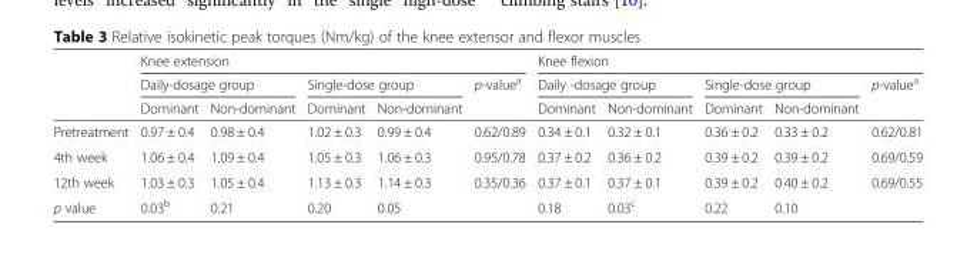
<table><thead><tr><td rowspan="3"></td><td colspan="5">Knee extension</td><td colspan="5">Knee flexion</td></tr><tr><td colspan="2">Daily-dosage group</td><td colspan="2">Single-dose group</td><td rowspan="2">p-value<sup>a</sup></td><td colspan="2">Daily -dosage group</td><td colspan="2">Single-dose group</td><td rowspan="2">p-value<sup>a</sup></td></tr><tr><td>Dominant</td><td>Non-dominant</td><td>Dominant</td><td>Non-dominant</td><td>Dominant</td><td>Non-dominant</td><td>Dominant</td><td>Non-dominant</td></tr></thead><tbody><tr><td>Pretreatment</td><td>0.97 ± 0.4</td><td>0.98 ± 0.4</td><td>1.02 ± 0.3</td><td>0.99 ± 0.4</td><td>0.62/0.89</td><td>0.34 ± 0.1</td><td>0.32 ± 0.1</td><td>0.36 ± 0.2</td><td>0.33 ± 0.2</td><td>0.62/0.81</td></tr><tr><td>4th week</td><td>1.06 ± 0.4</td><td>1.09 ± 0.4</td><td>1.05 ± 0.3</td><td>1.06 ± 0.3</td><td>0.95/0.78</td><td>0.37 ± 0.2</td><td>0.36 ± 0.2</td><td>0.39 ± 0.2</td><td>0.39 ± 0.2</td><td>0.69/0.59</td></tr><tr><td>12th week</td><td>1.03 ± 0.3</td><td>1.05 ± 0.4</td><td>1.13 ± 0.3</td><td>1.14 ± 0.3</td><td>0.35/0.36</td><td>0.37 ± 0.1</td><td>0.37 ± 0.1</td><td>0.39 ± 0.2</td><td>0.40 ± 0.2</td><td>0.69/0.55</td></tr><tr><td>p value</td><td>0.03<sup>b</sup></td><td>0.21</td><td>0.20</td><td>0.05</td><td></td><td>0.18</td><td>0.03<sup>c</sup></td><td>0.22</td><td>0.10</td><td></td></tr></tbody></table>